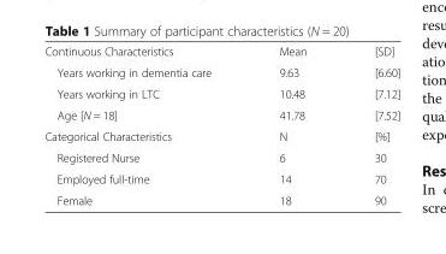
<table><tbody><tr><td>Continuous Characteristics</td><td>Mean</td><td>[SD]</td></tr><tr><td>Years working in dementia care</td><td>9.63</td><td>[6.60]</td></tr><tr><td>Years working in LTC</td><td>10.48</td><td>[7.12]</td></tr><tr><td>Age [N = 18]</td><td>41.78</td><td>[7.52]</td></tr><tr><td>Categorical Characteristics</td><td>N</td><td>[%]</td></tr><tr><td>Registered Nurse</td><td>6</td><td>30</td></tr><tr><td>Employed full-time</td><td>14</td><td>70</td></tr><tr><td>Female</td><td>18</td><td>90</td></tr></tbody></table>